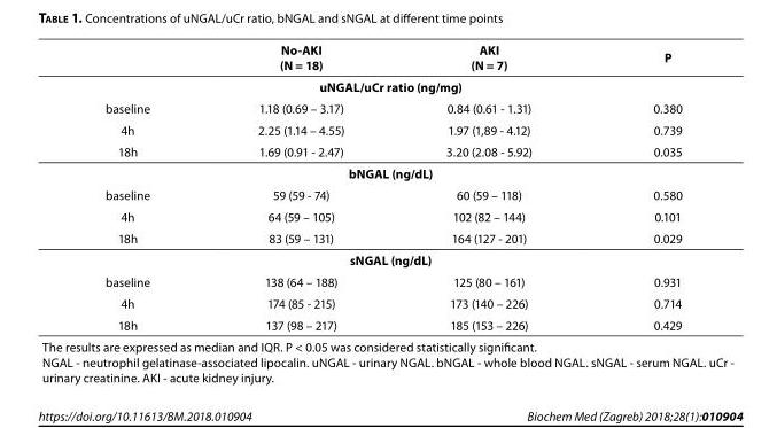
<table><thead><tr><td></td><td>No-AKI (N = 18)</td><td>AKI (N = 7)</td><td>P</td></tr></thead><tbody><tr><td colspan="4">uNGAL/uCr ratio (ng/mg)</td></tr><tr><td>baseline</td><td>1.18 (0.69 – 3.17)</td><td>0.84 (0.61 - 1.31)</td><td>0.380</td></tr><tr><td>4h</td><td>2.25 (1.14 – 4.55)</td><td>1.97 (1,89 - 4.12)</td><td>0.739</td></tr><tr><td>18h</td><td>1.69 (0.91 - 2.47)</td><td>3.20 (2.08 - 5.92)</td><td>0.035</td></tr><tr><td colspan="4">bNGAL (ng/dL)</td></tr><tr><td>baseline</td><td>59 (59 - 74)</td><td>60 (59 – 118)</td><td>0.580</td></tr><tr><td>4h</td><td>64 (59 – 105)</td><td>102 (82 – 144)</td><td>0.101</td></tr><tr><td>18h</td><td>83 (59 – 131)</td><td>164 (127 - 201)</td><td>0.029</td></tr><tr><td colspan="4">sNGAL (ng/dL)</td></tr><tr><td>baseline</td><td>138 (64 – 188)</td><td>125 (80 – 161)</td><td>0.931</td></tr><tr><td>4h</td><td>174 (85 - 215)</td><td>173 (140 – 226)</td><td>0.714</td></tr><tr><td>18h</td><td>137 (98 – 217)</td><td>185 (153 – 226)</td><td>0.429</td></tr><tr><td colspan="4">The results are expressed as median and IQR. P &lt; 0.05 was considered statistically significant. NGAL - neutrophil gelatinase-associated lipocalin. uNGAL - urinary NGAL. bNGAL - whole blood NGAL. sNGAL - serum NGAL. uCr - urinary creatinine. AKI - acute kidney injury.</td></tr></tbody></table>